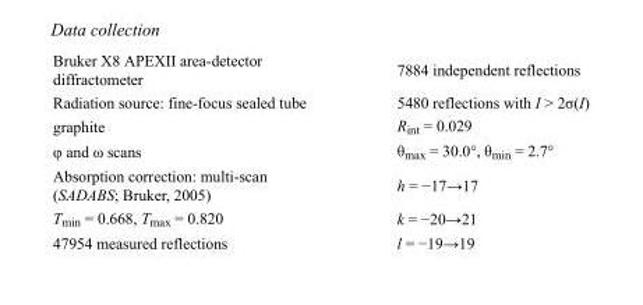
<table><tbody><tr><td>Bruker X8 APEXII area-detector diffractometer</td><td>7884 independent reflections</td></tr><tr><td>Radiation source: fine-focus sealed tube</td><td>5480 reflections with I &gt; 2σ(I)</td></tr><tr><td>graphite</td><td>R<sub>int</sub> = 0.029</td></tr><tr><td>φ and ω scans</td><td>θ<sub>max</sub> = 30.0°, θ<sub>min</sub> = 2.7°</td></tr><tr><td>Absorption correction: multi-scan (SADABS; Bruker, 2005)</td><td>h = −17→17</td></tr><tr><td>T<sub>min</sub> = 0.668, T<sub>max</sub> = 0.820</td><td>k = −20→21</td></tr><tr><td>47954 measured reflections</td><td>l = −19→19</td></tr></tbody></table>